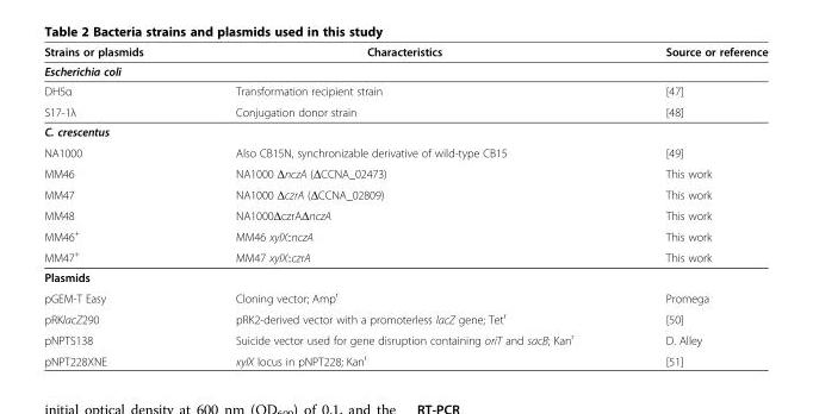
<table><thead><tr><td>Strains or plasmids</td><td>Characteristics</td><td>Source or reference</td></tr></thead><tbody><tr><td colspan="3">Escherichia coli</td></tr><tr><td>DH5α</td><td>Transformation recipient strain</td><td>[47]</td></tr><tr><td>S17-1λ</td><td>Conjugation donor strain</td><td>[48]</td></tr><tr><td colspan="3">C. crescentus</td></tr><tr><td>NA1000</td><td>Also CB15N, synchronizable derivative of wild-type CB15</td><td>[49]</td></tr><tr><td>MM46</td><td>NA1000 ΔnczA (ΔCCNA_02473)</td><td>This work</td></tr><tr><td>MM47</td><td>NA1000 ΔczrA (ΔCCNA_02809)</td><td>This work</td></tr><tr><td>MM48</td><td>NA1000ΔczrAΔnczA</td><td>This work</td></tr><tr><td>MM46<sup>+</sup></td><td>MM46 xylX::nczA</td><td>This work</td></tr><tr><td>MM47<sup>+</sup></td><td>MM47 xylX::czrA</td><td>This work</td></tr><tr><td colspan="3">Plasmids</td></tr><tr><td>pGEM-T Easy</td><td>Cloning vector; Amp<sup>r</sup></td><td>Promega</td></tr><tr><td>pRKlacZ290</td><td>pRK2-derived vector with a promoterless lacZ gene; Tet<sup>r</sup></td><td>[50]</td></tr><tr><td>pNPTS138</td><td>Suicide vector used for gene disruption containing oriT and sacB; Kan<sup>r</sup></td><td>D. Alley</td></tr><tr><td>pNPT228XNE</td><td>xylX locus in pNPT228; Kan<sup>r</sup></td><td>[51]</td></tr></tbody></table>